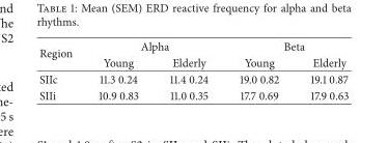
<table><thead><tr><td rowspan="2">Region</td><td colspan="2">Alpha</td><td colspan="2">Beta</td></tr><tr><td>Young</td><td>Elderly</td><td>Young</td><td>Elderly</td></tr></thead><tbody><tr><td>SIIc</td><td>11.3 0.24</td><td>11.4 0.24</td><td>19.0 0.82</td><td>19.1 0.87</td></tr><tr><td>SIIi</td><td>10.9 0.83</td><td>11.0 0.35</td><td>17.7 0.69</td><td>17.9 0.63</td></tr></tbody></table>